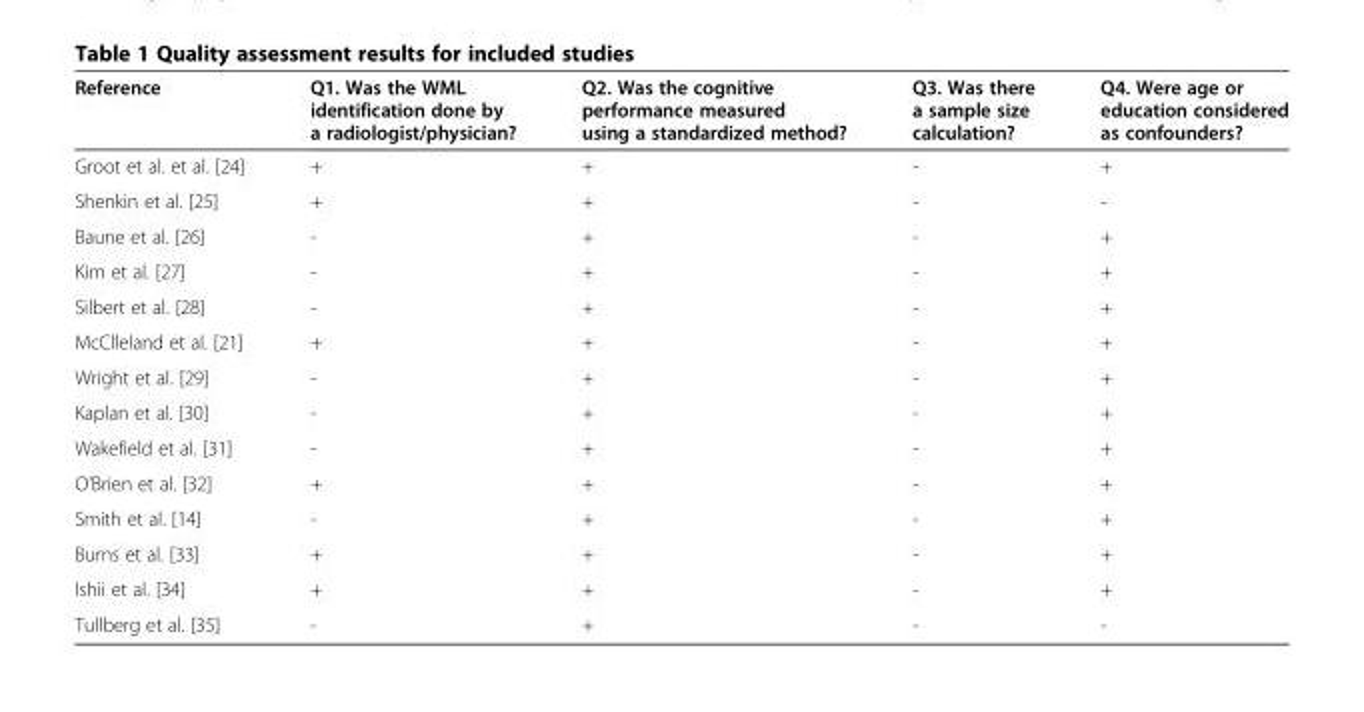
<table><thead><tr><td>Reference</td><td>Q1. Was the WML identification done by a radiologist/physician?</td><td>Q2. Was the cognitive performance measured using a standardized method?</td><td>Q3. Was there a sample size calculation?</td><td>Q4. Were age or education considered as confounders?</td></tr></thead><tbody><tr><td>Groot et al. et al. [24]</td><td>+</td><td>+</td><td>-</td><td>+</td></tr><tr><td>Shenkin et al. [25]</td><td>+</td><td>+</td><td>-</td><td>-</td></tr><tr><td>Baune et al. [26]</td><td>-</td><td>+</td><td>-</td><td>+</td></tr><tr><td>Kim et al. [27]</td><td>-</td><td>+</td><td>-</td><td>+</td></tr><tr><td>Silbert et al. [28]</td><td>-</td><td>+</td><td>-</td><td>+</td></tr><tr><td>McClleland et al. [21]</td><td>+</td><td>+</td><td>-</td><td>+</td></tr><tr><td>Wright et al. [29]</td><td>-</td><td>+</td><td>-</td><td>+</td></tr><tr><td>Kaplan et al. [30]</td><td>-</td><td>+</td><td>-</td><td>+</td></tr><tr><td>Wakefield et al. [31]</td><td>-</td><td>+</td><td>-</td><td>+</td></tr><tr><td>O’Brien et al. [32]</td><td>+</td><td>+</td><td>-</td><td>+</td></tr><tr><td>Smith et al. [14]</td><td>-</td><td>+</td><td>-</td><td>+</td></tr><tr><td>Burns et al. [33]</td><td>+</td><td>+</td><td>-</td><td>+</td></tr><tr><td>Ishii et al. [34]</td><td>+</td><td>+</td><td>-</td><td>+</td></tr><tr><td>Tullberg et al. [35]</td><td>-</td><td>+</td><td>-</td><td>-</td></tr></tbody></table>